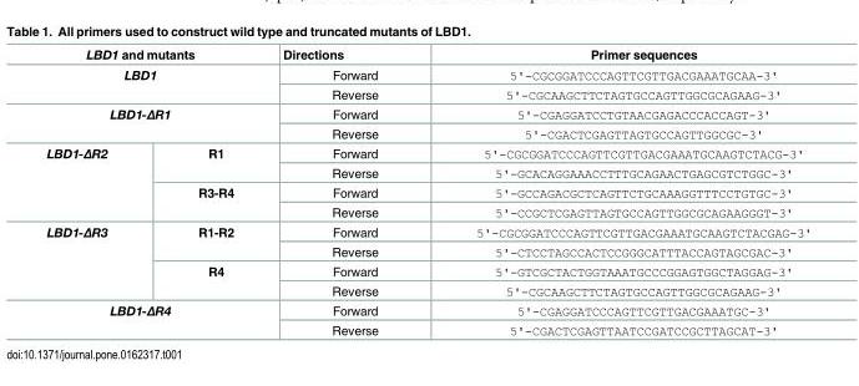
<table><thead><tr><td colspan="2">LBD1 and mutants</td><td>Directions</td><td>Primer sequences</td></tr></thead><tbody><tr><td rowspan="2" colspan="2">LBD1</td><td>Forward</td><td>5&#x27;-CGCGGATCCCAGTTCGTTGACGAAATGCAA-3&#x27;</td></tr><tr><td>Reverse</td><td>5&#x27;-CGCAAGCTTCTAGTGCCAGTTGGCGCAGAAG-3&#x27;</td></tr><tr><td rowspan="2" colspan="2">LBD1-ΔR1</td><td>Forward</td><td>5&#x27;-CGAGGATCCTGTAACGAGACCCACCAGT-3&#x27;</td></tr><tr><td>Reverse</td><td>5&#x27;-CGACTCGAGTTAGTGCCAGTTGGCGC-3&#x27;</td></tr><tr><td rowspan="4">LBD1-ΔR2</td><td rowspan="2">R1</td><td>Forward</td><td>5&#x27;-CGCGGATCCCAGTTCGTTGACGAAATGCAAGTCTACG-3&#x27;</td></tr><tr><td>Reverse</td><td>5&#x27;-GCACAGGAAACCTTTGCAGAACTGAGCGTCTGGC-3&#x27;</td></tr><tr><td rowspan="2">R3-R4</td><td>Forward</td><td>5&#x27;-GCCAGACGCTCAGTTCTGCAAAGGTTTCCTGTGC-3&#x27;</td></tr><tr><td>Reverse</td><td>5&#x27;-CCGCTCGAGTTAGTGCCAGTTGGCGCAGAAGGGT-3&#x27;</td></tr><tr><td rowspan="4">LBD1-ΔR3</td><td rowspan="2">R1-R2</td><td>Forward</td><td>5&#x27;-CGCGGATCCCAGTTCGTTGACGAAATGCAAGTCTACGAG-3&#x27;</td></tr><tr><td>Reverse</td><td>5&#x27;-CTCCTAGCCACTCCGGGCATTTACCAGTAGCGAC-3&#x27;</td></tr><tr><td rowspan="2">R4</td><td>Forward</td><td>5&#x27;-GTCGCTACTGGTAAATGCCCGGAGTGGCTAGGAG-3&#x27;</td></tr><tr><td>Reverse</td><td>5&#x27;-CGCAAGCTTCTAGTGCCAGTTGGCGCAGAAG-3&#x27;</td></tr><tr><td rowspan="2" colspan="2">LBD1-ΔR4</td><td>Forward</td><td>5&#x27;-CGAGGATCCCAGTTCGTTGACGAAATGC-3&#x27;</td></tr><tr><td>Reverse</td><td>5&#x27;-CGACTCGAGTTAATCCGATCCGCTTAGCAT-3&#x27;</td></tr></tbody></table>